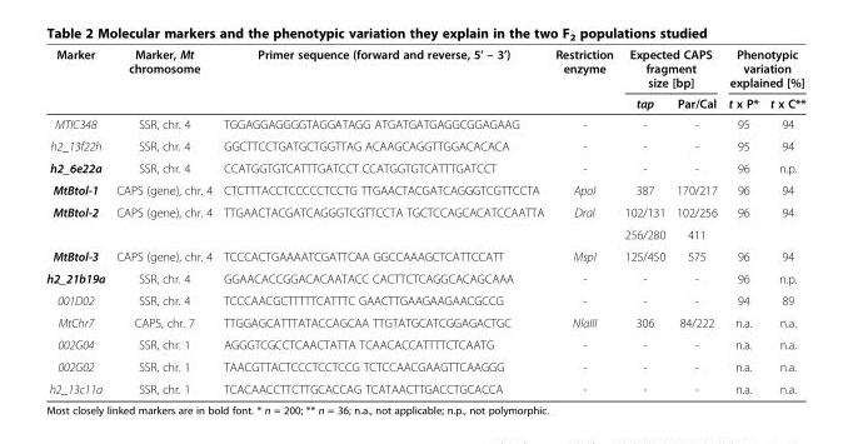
<table><thead><tr><td rowspan="2">Marker</td><td rowspan="2">Marker, Mt chromosome</td><td rowspan="2">Primer sequence (forward and reverse, 5’ – 3’)</td><td rowspan="2">Restriction enzyme</td><td colspan="2">Expected CAPS fragment size [bp]</td><td colspan="2">Phenotypic variation explained [%]</td></tr><tr><td>tap</td><td>Par/Cal</td><td>t x P*</td><td>t x C**</td></tr></thead><tbody><tr><td>MTIC348</td><td>SSR, chr. 4</td><td>TGGAGGAGGGGTAGGATAGG ATGATGATGAGGCGGAGAAG</td><td>-</td><td>-</td><td>-</td><td>95</td><td>94</td></tr><tr><td>h2_13f22h</td><td>SSR, chr. 4</td><td>GGCTTCCTGATGCTGGTTAG ACAAGCAGGTTGGACACACA</td><td>-</td><td>-</td><td>-</td><td>95</td><td>94</td></tr><tr><td>h2_6e22a</td><td>SSR, chr. 4</td><td>CCATGGTGTCATTTGATCCT CCATGGTGTCATTTGATCCT</td><td>-</td><td>-</td><td>-</td><td>96</td><td>n.p.</td></tr><tr><td>MtBtol-1</td><td>CAPS (gene), chr. 4</td><td>CTCTTTACCTCCCCCTCCTG TTGAACTACGATCAGGGTCGTTCCTA</td><td>ApoI</td><td>387</td><td>170/217</td><td>96</td><td>94</td></tr><tr><td rowspan="2">MtBtol-2</td><td rowspan="2">CAPS (gene), chr. 4</td><td rowspan="2">TTGAACTACGATCAGGGTCGTTCCTA TGCTCCAGCACATCCAATTA</td><td rowspan="2">DraI</td><td>102/131</td><td>102/256</td><td rowspan="2">96</td><td rowspan="2">94</td></tr><tr><td>256/280</td><td>411</td></tr><tr><td>MtBtol-3</td><td>CAPS (gene), chr. 4</td><td>TCCCACTGAAAATCGATTCAA GGCCAAAGCTCATTCCATT</td><td>MspI</td><td>125/450</td><td>575</td><td>96</td><td>94</td></tr><tr><td>h2_21b19a</td><td>SSR, chr. 4</td><td>GGAACACCGGACACAATACC CACTTCTCAGGCACAGCAAA</td><td>-</td><td>-</td><td>-</td><td>96</td><td>n.p.</td></tr><tr><td>001D02</td><td>SSR, chr. 4</td><td>TCCCAACGCTTTTTCATTTC GAACTTGAAGAAGAACGCCG</td><td>-</td><td>-</td><td>-</td><td>94</td><td>89</td></tr><tr><td>MtChr7</td><td>CAPS, chr. 7</td><td>TTGGAGCATTTATACCAGCAA TTGTATGCATCGGAGACTGC</td><td>NlaIII</td><td>306</td><td>84/222</td><td>n.a.</td><td>n.a.</td></tr><tr><td>002G04</td><td>SSR, chr. 1</td><td>AGGGTCGCCTCAACTATTA TCAACACCATTTTCTCAATG</td><td>-</td><td>-</td><td>-</td><td>n.a.</td><td>n.a.</td></tr><tr><td>002G02</td><td>SSR, chr. 1</td><td>TAACGTTACTCCCTCCTCCG TCTCCAACGAAGTTCAAGGG</td><td>-</td><td>-</td><td>-</td><td>n.a.</td><td>n.a.</td></tr><tr><td>h2_13c11a</td><td>SSR, chr. 1</td><td>TCACAACCTTCTTGCACCAG TCATAACTTGACCTGCACCA</td><td>-</td><td>-</td><td>-</td><td>n.a.</td><td>n.a.</td></tr></tbody></table>